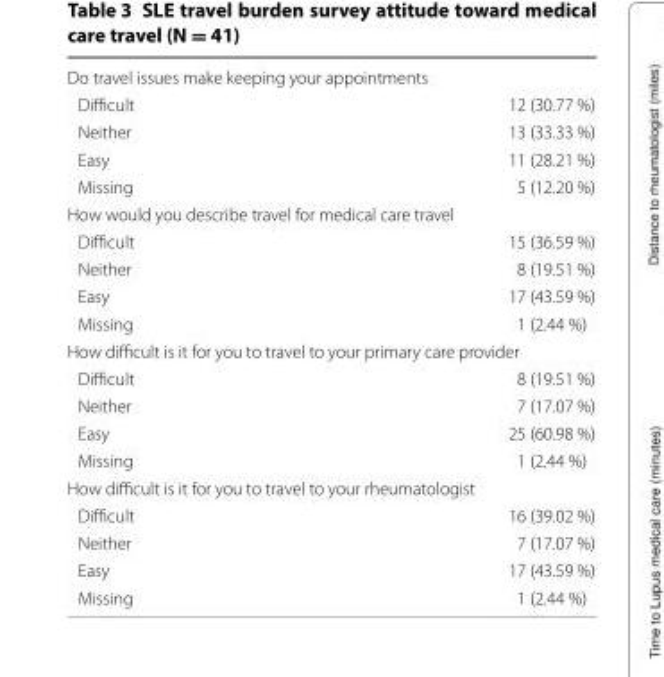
<table><tbody><tr><td colspan="2">Do travel issues make keeping your appointments</td></tr><tr><td>Difficult</td><td>12 (30.77 %)</td></tr><tr><td>Neither</td><td>13 (33.33 %)</td></tr><tr><td>Easy</td><td>11 (28.21 %)</td></tr><tr><td>Missing</td><td>5 (12.20 %)</td></tr><tr><td colspan="2">How would you describe travel for medical care travel</td></tr><tr><td>Difficult</td><td>15 (36.59 %)</td></tr><tr><td>Neither</td><td>8 (19.51 %)</td></tr><tr><td>Easy</td><td>17 (43.59 %)</td></tr><tr><td>Missing</td><td>1 (2.44 %)</td></tr><tr><td colspan="2">How difficult is it for you to travel to your primary care provider</td></tr><tr><td>Difficult</td><td>8 (19.51 %)</td></tr><tr><td>Neither</td><td>7 (17.07 %)</td></tr><tr><td>Easy</td><td>25 (60.98 %)</td></tr><tr><td>Missing</td><td>1 (2.44 %)</td></tr><tr><td colspan="2">How difficult is it for you to travel to your rheumatologist</td></tr><tr><td>Difficult</td><td>16 (39.02 %)</td></tr><tr><td>Neither</td><td>7 (17.07 %)</td></tr><tr><td>Easy</td><td>17 (43.59 %)</td></tr><tr><td>Missing</td><td>1 (2.44 %)</td></tr></tbody></table>